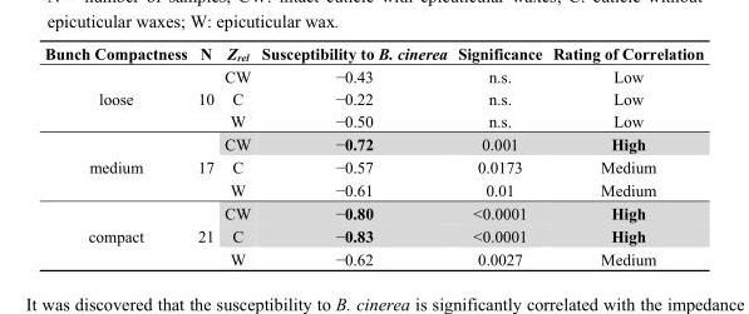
<table><thead><tr><td>Bunch Compactness</td><td>N</td><td>Z<sub>rel</sub></td><td>Susceptibility to B. cinerea</td><td>Significance</td><td>Rating of Correlation</td></tr></thead><tbody><tr><td rowspan="3">loose</td><td rowspan="3">10</td><td>CW</td><td>−0.43</td><td>n.s.</td><td>Low</td></tr><tr><td>C</td><td>−0.22</td><td>n.s.</td><td>Low</td></tr><tr><td>W</td><td>−0.50</td><td>n.s.</td><td>Low</td></tr><tr><td rowspan="3">medium</td><td rowspan="3">17</td><td>CW</td><td>−0.72</td><td>0.001</td><td>High</td></tr><tr><td>C</td><td>−0.57</td><td>0.0173</td><td>Medium</td></tr><tr><td>W</td><td>−0.61</td><td>0.01</td><td>Medium</td></tr><tr><td rowspan="3">compact</td><td rowspan="3">21</td><td>CW</td><td>−0.80</td><td>&lt;0.0001</td><td>High</td></tr><tr><td>C</td><td>−0.83</td><td>&lt;0.0001</td><td>High</td></tr><tr><td>W</td><td>−0.62</td><td>0.0027</td><td>Medium</td></tr></tbody></table>